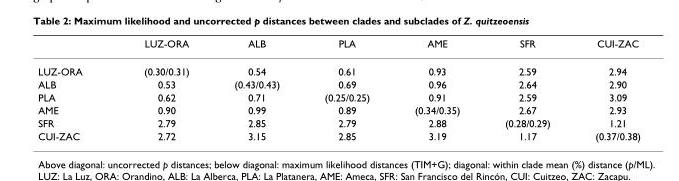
<table><thead><tr><td></td><td>LUZ-ORA</td><td>ALB</td><td>PLA</td><td>AME</td><td>SFR</td><td>CUI-ZAC</td></tr></thead><tbody><tr><td>LUZ-ORA</td><td>(0.30/0.31)</td><td>0.54</td><td>0.61</td><td>0.93</td><td>2.59</td><td>2.94</td></tr><tr><td>ALB</td><td>0.53</td><td>(0.43/0.43)</td><td>0.69</td><td>0.96</td><td>2.64</td><td>2.90</td></tr><tr><td>PLA</td><td>0.62</td><td>0.71</td><td>(0.25/0.25)</td><td>0.91</td><td>2.59</td><td>3.09</td></tr><tr><td>AME</td><td>0.90</td><td>0.99</td><td>0.89</td><td>(0.34/0.35)</td><td>2.67</td><td>2.93</td></tr><tr><td>SFR</td><td>2.79</td><td>2.85</td><td>2.79</td><td>2.88</td><td>(0.28/0.29)</td><td>1.21</td></tr><tr><td>CUI-ZAC</td><td>2.72</td><td>3.15</td><td>2.85</td><td>3.19</td><td>1.17</td><td>(0.37/0.38)</td></tr></tbody></table>